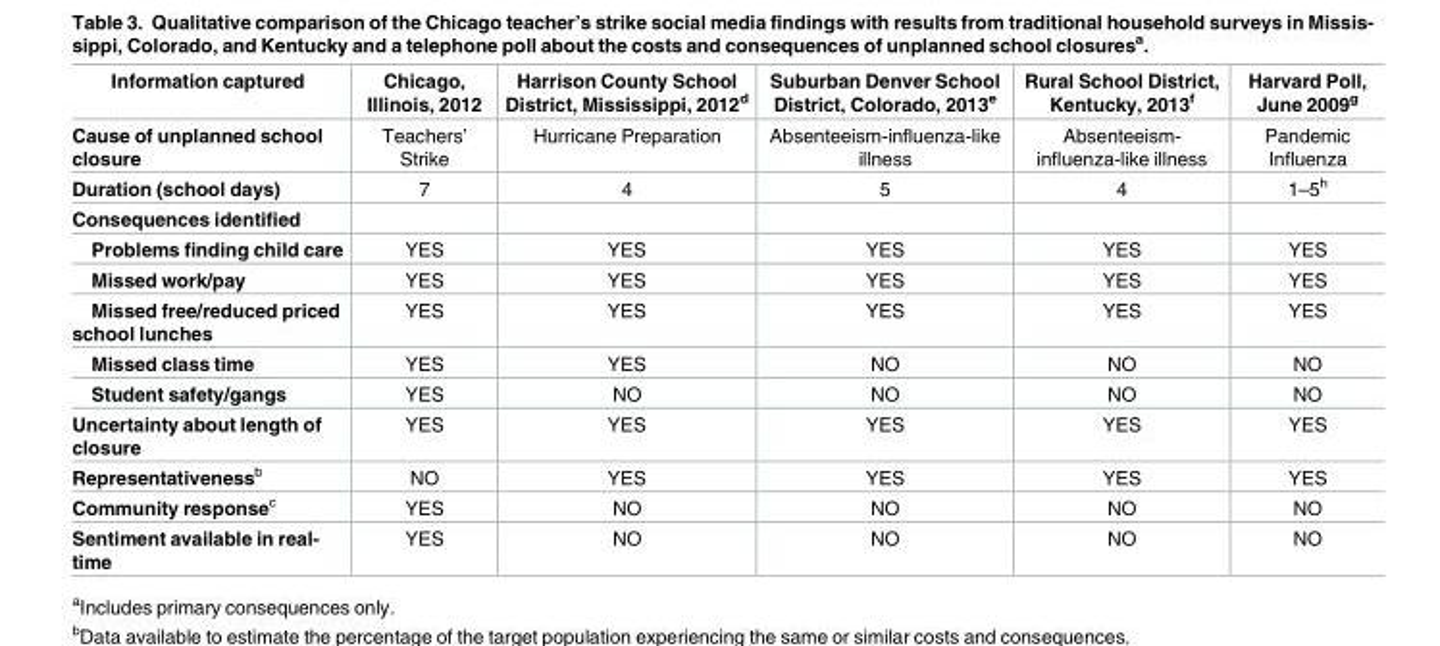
<table><thead><tr><td>Information captured</td><td>Chicago, Illinois, 2012</td><td>Harrison County School District, Mississippi, 2012<sup>d</sup></td><td>Suburban Denver School District, Colorado, 2013<sup>e</sup></td><td>Rural School District, Kentucky, 2013<sup>f</sup></td><td>Harvard Poll, June 2009<sup>g</sup></td></tr></thead><tbody><tr><td>Cause of unplanned school closure</td><td>Teachers’ Strike</td><td>Hurricane Preparation</td><td>Absenteeism-influenza-like illness</td><td>Absenteeism- influenza-like illness</td><td>Pandemic Influenza</td></tr><tr><td>Duration (school days)</td><td>7</td><td>4</td><td>5</td><td>4</td><td>1–5<sup>h</sup></td></tr><tr><td colspan="6">Consequences identified</td></tr><tr><td>Problems finding child care</td><td>YES</td><td>YES</td><td>YES</td><td>YES</td><td>YES</td></tr><tr><td>Missed work/pay</td><td>YES</td><td>YES</td><td>YES</td><td>YES</td><td>YES</td></tr><tr><td>Missed free/reduced priced school lunches</td><td>YES</td><td>YES</td><td>YES</td><td>YES</td><td>YES</td></tr><tr><td>Missed class time</td><td>YES</td><td>YES</td><td>NO</td><td>NO</td><td>NO</td></tr><tr><td>Student safety/gangs</td><td>YES</td><td>NO</td><td>NO</td><td>NO</td><td>NO</td></tr><tr><td>Uncertainty about length of closure</td><td>YES</td><td>YES</td><td>YES</td><td>YES</td><td>YES</td></tr><tr><td>Representativeness<sup>b</sup></td><td>NO</td><td>YES</td><td>YES</td><td>YES</td><td>YES</td></tr><tr><td>Community response<sup>c</sup></td><td>YES</td><td>NO</td><td>NO</td><td>NO</td><td>NO</td></tr><tr><td>Sentiment available in real- time</td><td>YES</td><td>NO</td><td>NO</td><td>NO</td><td>NO</td></tr></tbody></table>